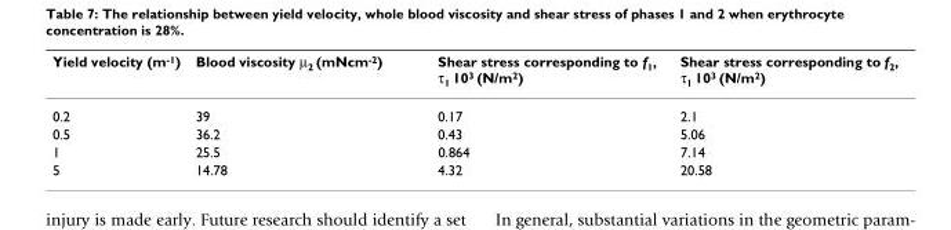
<table><thead><tr><td>Yield velocity (m<sup>-1</sup>)</td><td>Blood viscosity μ<sub>2</sub> (mNcm<sup>-2</sup>)</td><td>Shear stress corresponding to f<sub>1</sub>, τ<sub>1</sub> 10<sup>3</sup> (N/m<sup>2</sup>)</td><td>Shear stress corresponding to f<sub>2</sub>, τ<sub>1</sub> 10<sup>3</sup> (N/m<sup>2</sup>)</td></tr></thead><tbody><tr><td>0.2</td><td>39</td><td>0.17</td><td>2.1</td></tr><tr><td>0.5</td><td>36.2</td><td>0.43</td><td>5.06</td></tr><tr><td>1</td><td>25.5</td><td>0.864</td><td>7.14</td></tr><tr><td>5</td><td>14.78</td><td>4.32</td><td>20.58</td></tr></tbody></table>